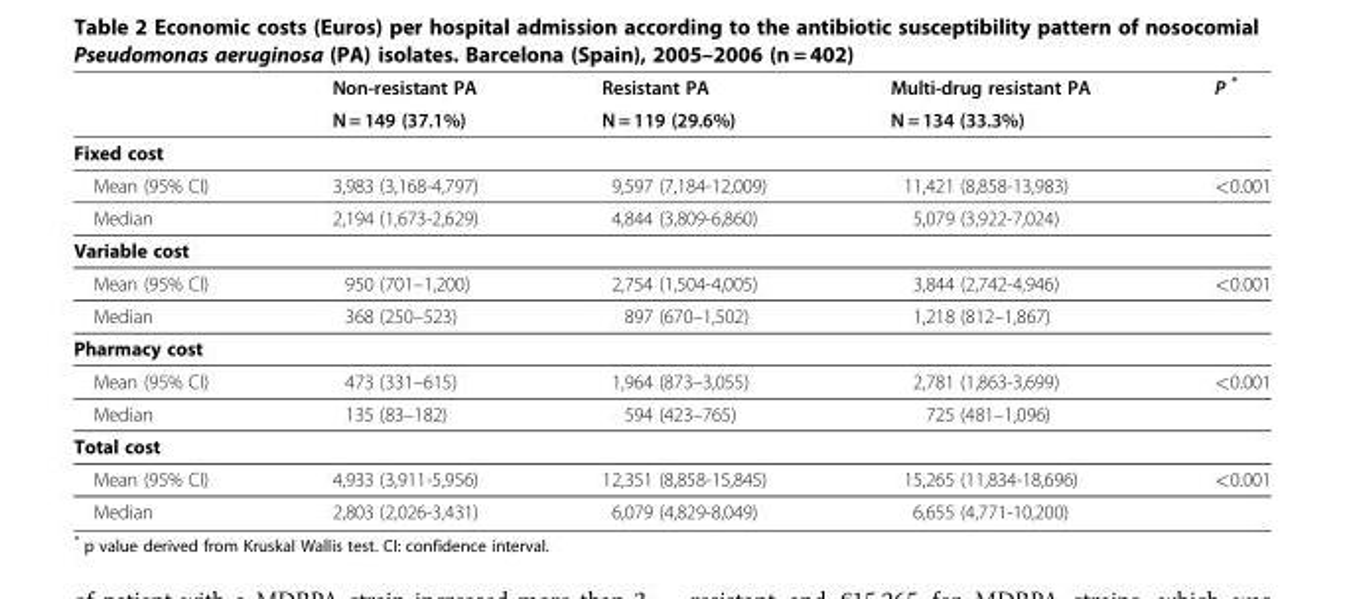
<table><thead><tr><td rowspan="2"></td><td rowspan="2">Non-resistant PA N = 149 (37.1%)</td><td rowspan="2">Resistant PA N = 119 (29.6%)</td><td rowspan="2">Multi-drug resistant PA N = 134 (33.3%)</td><td rowspan="2">P *</td></tr><tr></tr></thead><tbody><tr><td colspan="5">Fixed cost</td></tr><tr><td>Mean (95% CI)</td><td>3,983 (3,168-4,797)</td><td>9,597 (7,184-12,009)</td><td>11,421 (8,858-13,983)</td><td>&lt;0.001</td></tr><tr><td>Median</td><td>2,194 (1,673-2,629)</td><td>4,844 (3,809-6,860)</td><td>5,079 (3,922-7,024)</td><td></td></tr><tr><td colspan="5">Variable cost</td></tr><tr><td>Mean (95% CI)</td><td>950 (701–1,200)</td><td>2,754 (1,504-4,005)</td><td>3,844 (2,742-4,946)</td><td>&lt;0.001</td></tr><tr><td>Median</td><td>368 (250–523)</td><td>897 (670–1,502)</td><td>1,218 (812–1,867)</td><td></td></tr><tr><td colspan="5">Pharmacy cost</td></tr><tr><td>Mean (95% CI)</td><td>473 (331–615)</td><td>1,964 (873–3,055)</td><td>2,781 (1,863-3,699)</td><td>&lt;0.001</td></tr><tr><td>Median</td><td>135 (83–182)</td><td>594 (423–765)</td><td>725 (481–1,096)</td><td></td></tr><tr><td colspan="5">Total cost</td></tr><tr><td>Mean (95% CI)</td><td>4,933 (3,911-5,956)</td><td>12,351 (8,858-15,845)</td><td>15,265 (11,834-18,696)</td><td>&lt;0.001</td></tr><tr><td>Median</td><td>2,803 (2,026-3,431)</td><td>6,079 (4,829-8,049)</td><td>6,655 (4,771-10,200)</td><td></td></tr></tbody></table>